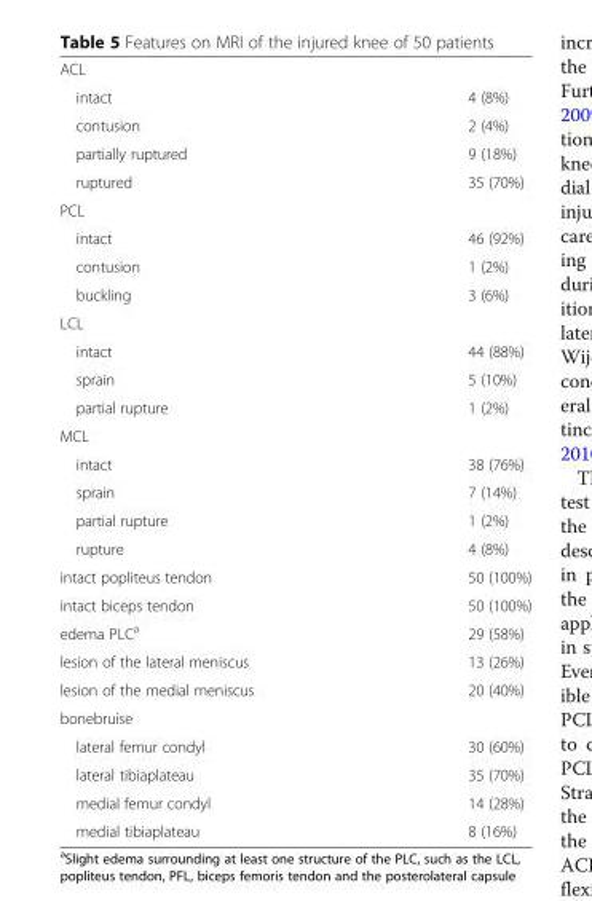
<table><tbody><tr><td colspan="2">ACL</td></tr><tr><td>intact</td><td>4 (8%)</td></tr><tr><td>contusion</td><td>2 (4%)</td></tr><tr><td>partially ruptured</td><td>9 (18%)</td></tr><tr><td>ruptured</td><td>35 (70%)</td></tr><tr><td colspan="2">PCL</td></tr><tr><td>intact</td><td>46 (92%)</td></tr><tr><td>contusion</td><td>1 (2%)</td></tr><tr><td>buckling</td><td>3 (6%)</td></tr><tr><td colspan="2">LCL</td></tr><tr><td>intact</td><td>44 (88%)</td></tr><tr><td>sprain</td><td>5 (10%)</td></tr><tr><td>partial rupture</td><td>1 (2%)</td></tr><tr><td colspan="2">MCL</td></tr><tr><td>intact</td><td>38 (76%)</td></tr><tr><td>sprain</td><td>7 (14%)</td></tr><tr><td>partial rupture</td><td>1 (2%)</td></tr><tr><td>rupture</td><td>4 (8%)</td></tr><tr><td>intact popliteus tendon</td><td>50 (100%)</td></tr><tr><td>intact biceps tendon</td><td>50 (100%)</td></tr><tr><td>edema PLC<sup>a</sup></td><td>29 (58%)</td></tr><tr><td>lesion of the lateral meniscus</td><td>13 (26%)</td></tr><tr><td>lesion of the medial meniscus</td><td>20 (40%)</td></tr><tr><td colspan="2">bonebruise</td></tr><tr><td>lateral femur condyl</td><td>30 (60%)</td></tr><tr><td>lateral tibiaplateau</td><td>35 (70%)</td></tr><tr><td>medial femur condyl</td><td>14 (28%)</td></tr><tr><td>medial tibiaplateau</td><td>8 (16%)</td></tr></tbody></table>